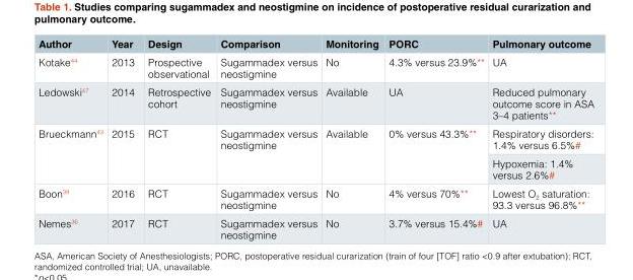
<table><thead><tr><td>Author</td><td>Year</td><td>Design</td><td>Comparison</td><td>Monitoring</td><td>PORC</td><td>Pulmonary outcome</td></tr></thead><tbody><tr><td>Kotake<sup>44</sup></td><td>2013</td><td>Prospective observational</td><td>Sugammadex versus neostigmine</td><td>No</td><td>4.3% versus 23.9%**</td><td>UA</td></tr><tr><td>Ledowski<sup>47</sup></td><td>2014</td><td>Retrospective cohort</td><td>Sugammadex versus neostigmine</td><td>Available</td><td>UA</td><td>Reduced pulmonary outcome score in ASA 3–4 patients**</td></tr><tr><td rowspan="2">Brueckmann<sup>43</sup></td><td rowspan="2">2015</td><td rowspan="2">RCT</td><td rowspan="2">Sugammadex versus neostigmine</td><td rowspan="2">Available</td><td rowspan="2">0% versus 43.3%**</td><td>Respiratory disorders: 1.4% versus 6.5%#</td></tr><tr><td>Hypoxemia: 1.4% versus 2.6%#</td></tr><tr><td>Boon<sup>39</sup></td><td>2016</td><td>RCT</td><td>Sugammadex versus neostigmine</td><td>No</td><td>4% versus 70%**</td><td>Lowest O<sub>2</sub> saturation: 93.3 versus 96.8%**</td></tr><tr><td>Nemes<sup>36</sup></td><td>2017</td><td>RCT</td><td>Sugammadex versus neostigmine</td><td>No</td><td>3.7% versus 15.4%#</td><td>UA</td></tr></tbody></table>